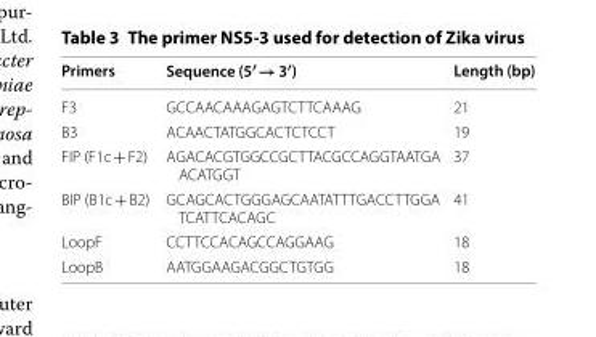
<table><thead><tr><td>Primers</td><td>Sequence (5′ → 3′)</td><td>Length (bp)</td></tr></thead><tbody><tr><td>F3</td><td>GCCAACAAAGAGTCTTCAAAG</td><td>21</td></tr><tr><td>B3</td><td>ACAACTATGGCACTCTCCT</td><td>19</td></tr><tr><td>FIP (F1c + F2)</td><td>AGACACGTGGCCGCTTACGCCAGGTAATGA ACATGGT</td><td>37</td></tr><tr><td>BIP (B1c + B2)</td><td>GCAGCACTGGGAGCAATATTTGACCTTGGA TCATTCACAGC</td><td>41</td></tr><tr><td>LoopF</td><td>CCTTCCACAGCCAGGAAG</td><td>18</td></tr><tr><td>LoopB</td><td>AATGGAAGACGGCTGTGG</td><td>18</td></tr></tbody></table>